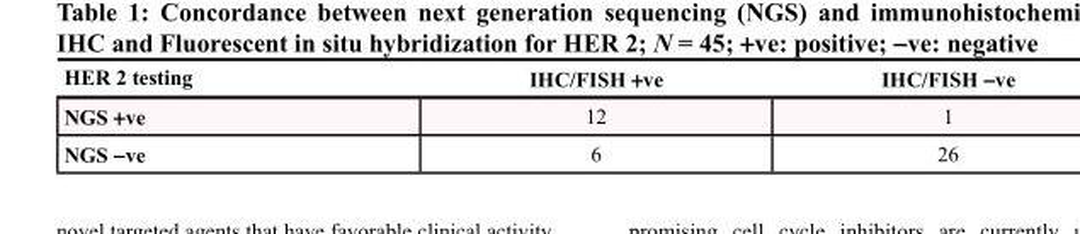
<table><thead><tr><td>HER 2 testing</td><td>IHC/FISH +ve</td><td>IHC/FISH -ve</td></tr></thead><tbody><tr><td>NGS +ve</td><td>12</td><td>1</td></tr><tr><td>NGS -ve</td><td>6</td><td>26</td></tr></tbody></table>